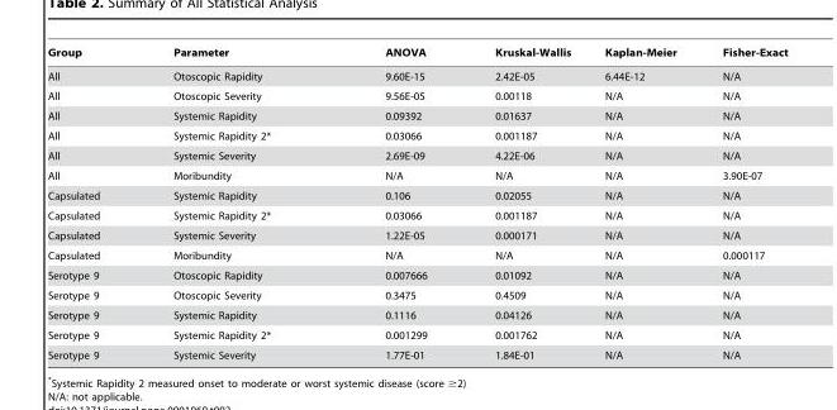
<table><thead><tr><td>Group</td><td>Parameter</td><td>ANOVA</td><td>Kruskal-Wallis</td><td>Kaplan-Meier</td><td>Fisher-Exact</td></tr></thead><tbody><tr><td>All</td><td>Otoscopic Rapidity</td><td>9.60E-15</td><td>2.42E-05</td><td>6.44E-12</td><td>N/A</td></tr><tr><td>All</td><td>Otoscopic Severity</td><td>9.56E-05</td><td>0.00118</td><td>N/A</td><td>N/A</td></tr><tr><td>All</td><td>Systemic Rapidity</td><td>0.09392</td><td>0.01637</td><td>N/A</td><td>N/A</td></tr><tr><td>All</td><td>Systemic Rapidity 2*</td><td>0.03066</td><td>0.001187</td><td>N/A</td><td>N/A</td></tr><tr><td>All</td><td>Systemic Severity</td><td>2.69E-09</td><td>4.22E-06</td><td>N/A</td><td>N/A</td></tr><tr><td>All</td><td>Moribundity</td><td>N/A</td><td>N/A</td><td>N/A</td><td>3.90E-07</td></tr><tr><td>Capsulated</td><td>Systemic Rapidity</td><td>0.106</td><td>0.02055</td><td>N/A</td><td>N/A</td></tr><tr><td>Capsulated</td><td>Systemic Rapidity 2*</td><td>0.03066</td><td>0.001187</td><td>N/A</td><td>N/A</td></tr><tr><td>Capsulated</td><td>Systemic Severity</td><td>1.22E-05</td><td>0.000171</td><td>N/A</td><td>N/A</td></tr><tr><td>Capsulated</td><td>Moribundity</td><td>N/A</td><td>N/A</td><td>N/A</td><td>0.000117</td></tr><tr><td>Serotype 9</td><td>Otoscopic Rapidity</td><td>0.007666</td><td>0.01092</td><td>N/A</td><td>N/A</td></tr><tr><td>Serotype 9</td><td>Otoscopic Severity</td><td>0.3475</td><td>0.4509</td><td>N/A</td><td>N/A</td></tr><tr><td>Serotype 9</td><td>Systemic Rapidity</td><td>0.1116</td><td>0.04126</td><td>N/A</td><td>N/A</td></tr><tr><td>Serotype 9</td><td>Systemic Rapidity 2*</td><td>0.001299</td><td>0.001762</td><td>N/A</td><td>N/A</td></tr><tr><td>Serotype 9</td><td>Systemic Severity</td><td>1.77E-01</td><td>1.84E-01</td><td>N/A</td><td>N/A</td></tr></tbody></table>